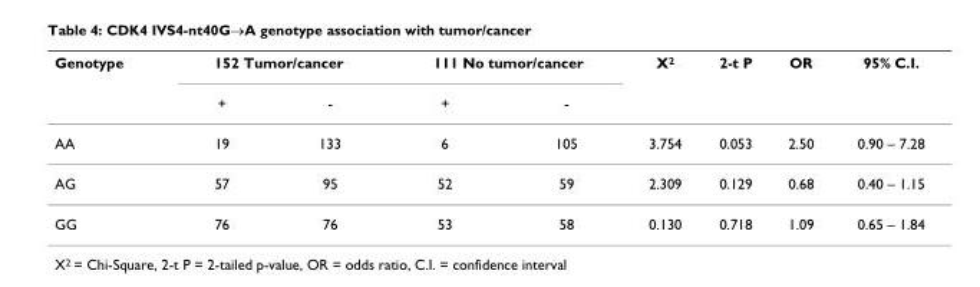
<table><thead><tr><td rowspan="2">Genotype</td><td colspan="2">152 Tumor/cancer</td><td colspan="2">111 No tumor/cancer</td><td rowspan="2">X<sup>2</sup></td><td rowspan="2">2-t P</td><td rowspan="2">OR</td><td rowspan="2">95% C.I.</td></tr><tr><td>+</td><td>-</td><td>+</td><td>-</td></tr></thead><tbody><tr><td>AA</td><td>19</td><td>133</td><td>6</td><td>105</td><td>3.754</td><td>0.053</td><td>2.50</td><td>0.90 – 7.28</td></tr><tr><td>AG</td><td>57</td><td>95</td><td>52</td><td>59</td><td>2.309</td><td>0.129</td><td>0.68</td><td>0.40 – 1.15</td></tr><tr><td>GG</td><td>76</td><td>76</td><td>53</td><td>58</td><td>0.130</td><td>0.718</td><td>1.09</td><td>0.65 – 1.84</td></tr></tbody></table>